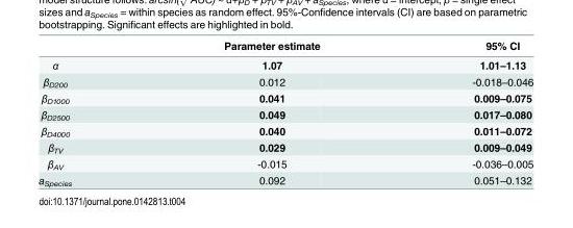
<table><thead><tr><td></td><td>Parameter estimate</td><td>95% CI</td></tr></thead><tbody><tr><td>α</td><td>1.07</td><td>1.01–1.13</td></tr><tr><td>β<sub>D200</sub></td><td>0.012</td><td>-0.018–0.046</td></tr><tr><td>β<sub>D1000</sub></td><td>0.041</td><td>0.009–0.075</td></tr><tr><td>β<sub>D2500</sub></td><td>0.049</td><td>0.017–0.080</td></tr><tr><td>β<sub>D4000</sub></td><td>0.040</td><td>0.011–0.072</td></tr><tr><td>β<sub>TV</sub></td><td>0.029</td><td>0.009–0.049</td></tr><tr><td>β<sub>AV</sub></td><td>-0.015</td><td>-0.036–0.005</td></tr><tr><td>a<sub>Species</sub></td><td>0.092</td><td>0.051–0.132</td></tr></tbody></table>